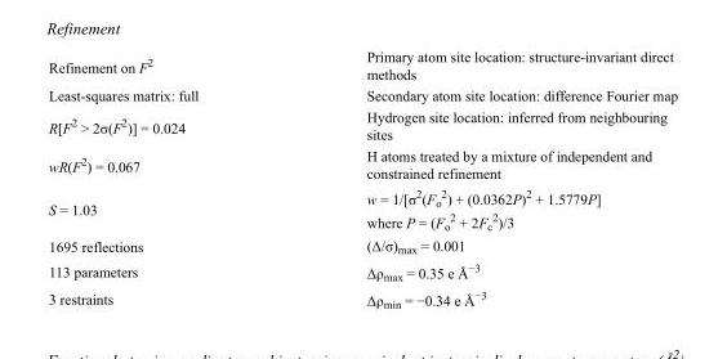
<table><tbody><tr><td>Refinement on F<sup>2</sup></td><td>Primary atom site location: structure-invariant direct methods</td></tr><tr><td>Least-squares matrix: full</td><td>Secondary atom site location: difference Fourier map</td></tr><tr><td>R[F<sup>2</sup> &gt; 2σ(F<sup>2</sup>)] = 0.024</td><td>Hydrogen site location: inferred from neighbouring sites</td></tr><tr><td>wR(F<sup>2</sup>) = 0.067</td><td>H atoms treated by a mixture of independent and constrained refinement</td></tr><tr><td>S = 1.03</td><td>w = 1/[σ<sup>2</sup>(F<sub>o</sub> <sup>2</sup>) + (0.0362P)<sup>2</sup> + 1.5779P] where P = (F<sub>o</sub> <sup>2</sup> + 2F<sub>c</sub> <sup>2</sup>)/3</td></tr><tr><td>1695 reflections</td><td>(Δ/σ)<sub>max</sub> = 0.001</td></tr><tr><td>113 parameters</td><td>Δρ<sub>max</sub> = 0.35 e Å<sup>−3</sup></td></tr><tr><td>3 restraints</td><td>Δρ<sub>min</sub> = −0.34 e Å<sup>−3</sup></td></tr></tbody></table>